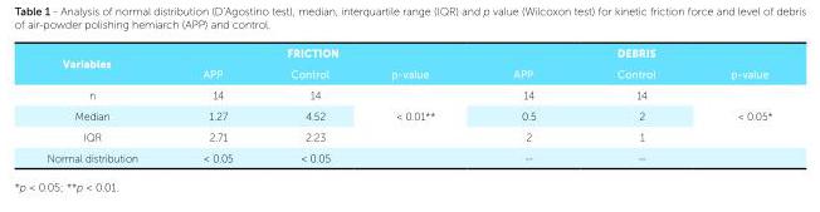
<table><tbody><tr><td rowspan="2">Variables</td><td colspan="3">FRICTION</td><td colspan="3">DEBRIS</td></tr><tr><td>APP</td><td>Control</td><td>p-value</td><td>APP</td><td>Control</td><td>p-value</td></tr><tr><td>n</td><td>14</td><td>14</td><td rowspan="3">&lt; 0.01**</td><td>14</td><td>14</td><td rowspan="3">&lt; 0.05*</td></tr><tr><td>Median</td><td>1.27</td><td>4.52</td><td>0.5</td><td>2</td></tr><tr><td>IQR</td><td>2.71</td><td>2.23</td><td>2</td><td>1</td></tr><tr><td>Normal distribution</td><td>&lt; 0.05</td><td>&lt; 0.05</td><td></td><td>--</td><td>--</td><td></td></tr></tbody></table>